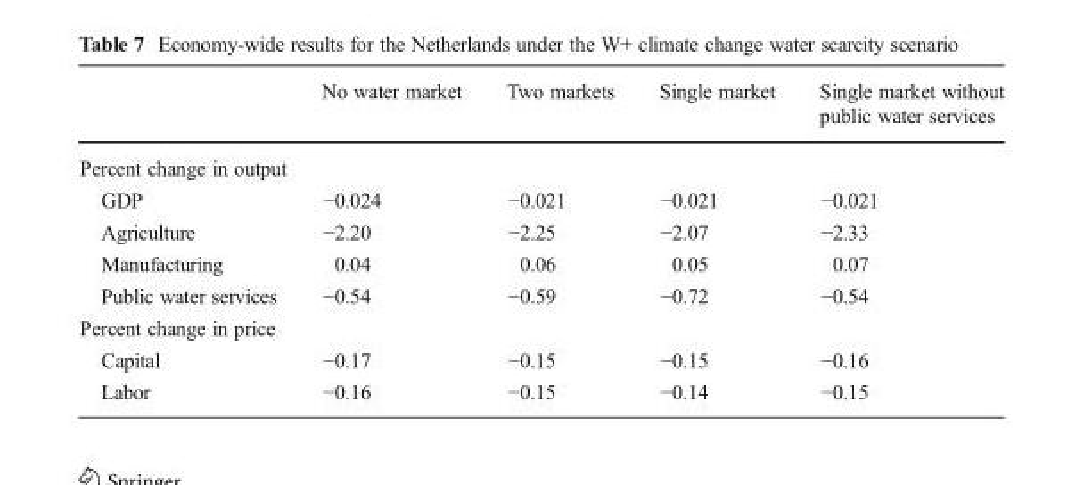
<table><thead><tr><td></td><td>No water market</td><td>Two markets</td><td>Single market</td><td>Single market without public water services</td></tr></thead><tbody><tr><td colspan="5">Percent change in output</td></tr><tr><td>GDP</td><td>−0.024</td><td>−0.021</td><td>−0.021</td><td>−0.021</td></tr><tr><td>Agriculture</td><td>−2.20</td><td>−2.25</td><td>−2.07</td><td>−2.33</td></tr><tr><td>Manufacturing</td><td>0.04</td><td>0.06</td><td>0.05</td><td>0.07</td></tr><tr><td>Public water services</td><td>−0.54</td><td>−0.59</td><td>−0.72</td><td>−0.54</td></tr><tr><td colspan="5">Percent change in price</td></tr><tr><td>Capital</td><td>−0.17</td><td>−0.15</td><td>−0.15</td><td>−0.16</td></tr><tr><td>Labor</td><td>−0.16</td><td>−0.15</td><td>−0.14</td><td>−0.15</td></tr></tbody></table>